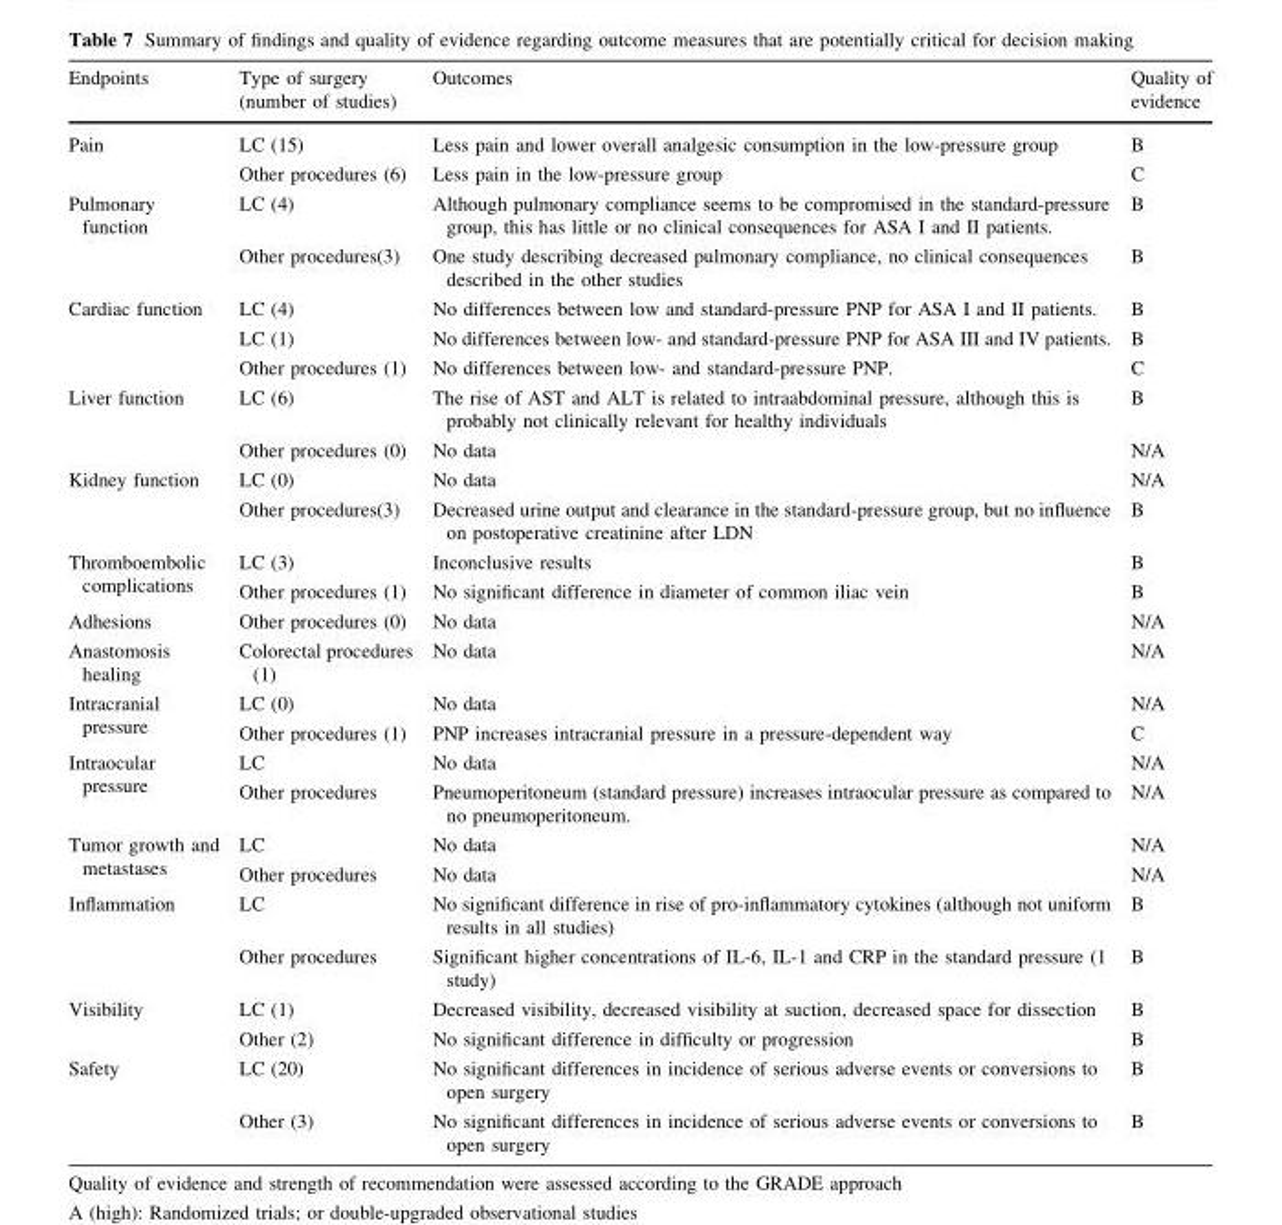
<table><thead><tr><td>Endpoints</td><td>Type of surgery (number of studies)</td><td>Outcomes</td><td>Quality of evidence</td></tr></thead><tbody><tr><td rowspan="2">Pain</td><td>LC (15)</td><td>Less pain and lower overall analgesic consumption in the low-pressure group</td><td>B</td></tr><tr><td>Other procedures (6)</td><td>Less pain in the low-pressure group</td><td>C</td></tr><tr><td rowspan="2">Pulmonary function</td><td>LC (4)</td><td>Although pulmonary compliance seems to be compromised in the standard-pressure group, this has little or no clinical consequences for ASA I and II patients.</td><td>B</td></tr><tr><td>Other procedures(3)</td><td>One study describing decreased pulmonary compliance, no clinical consequences described in the other studies</td><td>B</td></tr><tr><td rowspan="3">Cardiac function</td><td>LC (4)</td><td>No differences between low and standard-pressure PNP for ASA I and II patients.</td><td>B</td></tr><tr><td>LC (1)</td><td>No differences between low- and standard-pressure PNP for ASA III and IV patients.</td><td>B</td></tr><tr><td>Other procedures (1)</td><td>No differences between low- and standard-pressure PNP.</td><td>C</td></tr><tr><td rowspan="2">Liver function</td><td>LC (6)</td><td>The rise of AST and ALT is related to intraabdominal pressure, although this is probably not clinically relevant for healthy individuals</td><td>B</td></tr><tr><td>Other procedures (0)</td><td>No data</td><td>N/A</td></tr><tr><td rowspan="2">Kidney function</td><td>LC (0)</td><td>No data</td><td>N/A</td></tr><tr><td>Other procedures(3)</td><td>Decreased urine output and clearance in the standard-pressure group, but no influence on postoperative creatinine after LDN</td><td>B</td></tr><tr><td rowspan="2">Thromboembolic complications</td><td>LC (3)</td><td>Inconclusive results</td><td>B</td></tr><tr><td>Other procedures (1)</td><td>No significant difference in diameter of common iliac vein</td><td>B</td></tr><tr><td>Adhesions</td><td>Other procedures (0)</td><td>No data</td><td>N/A</td></tr><tr><td>Anastomosis healing</td><td>Colorectal procedures (1)</td><td>No data</td><td>N/A</td></tr><tr><td rowspan="2">Intracranial pressure</td><td>LC (0)</td><td>No data</td><td>N/A</td></tr><tr><td>Other procedures (1)</td><td>PNP increases intracranial pressure in a pressure-dependent way</td><td>C</td></tr><tr><td rowspan="2">Intraocular pressure</td><td>LC</td><td>No data</td><td>N/A</td></tr><tr><td>Other procedures</td><td>Pneumoperitoneum (standard pressure) increases intraocular pressure as compared to no pneumoperitoneum.</td><td>N/A</td></tr><tr><td rowspan="2">Tumor growth and metastases</td><td>LC</td><td>No data</td><td>N/A</td></tr><tr><td>Other procedures</td><td>No data</td><td>N/A</td></tr><tr><td rowspan="2">Inflammation</td><td>LC</td><td>No significant difference in rise of pro-inflammatory cytokines (although not uniform results in all studies)</td><td>B</td></tr><tr><td>Other procedures</td><td>Significant higher concentrations of IL-6, IL-1 and CRP in the standard pressure (1 study)</td><td>B</td></tr><tr><td rowspan="2">Visibility</td><td>LC (1)</td><td>Decreased visibility, decreased visibility at suction, decreased space for dissection</td><td>B</td></tr><tr><td>Other (2)</td><td>No significant difference in difficulty or progression</td><td>B</td></tr><tr><td rowspan="2">Safety</td><td>LC (20)</td><td>No significant differences in incidence of serious adverse events or conversions to open surgery</td><td>B</td></tr><tr><td>Other (3)</td><td>No significant differences in incidence of serious adverse events or conversions to open surgery</td><td>B</td></tr></tbody></table>